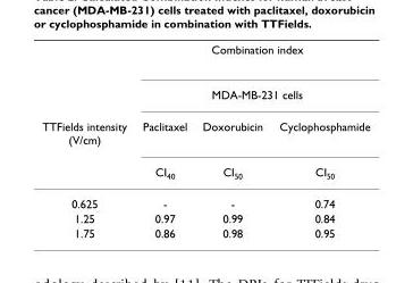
<table><thead><tr><td rowspan="4">TTFields intensity (V/cm)</td><td rowspan="2" colspan="3">Combination index MDA-MB-231 cells</td></tr><tr></tr><tr><td rowspan="2">Paclitaxel CI<sub>40</sub></td><td rowspan="2">Doxorubicin CI<sub>50</sub></td><td rowspan="2">Cyclophosphamide CI<sub>50</sub></td></tr><tr></tr></thead><tbody><tr><td>0.625</td><td>-</td><td>-</td><td>0.74</td></tr><tr><td>1.25</td><td>0.97</td><td>0.99</td><td>0.84</td></tr><tr><td>1.75</td><td>0.86</td><td>0.98</td><td>0.95</td></tr></tbody></table>